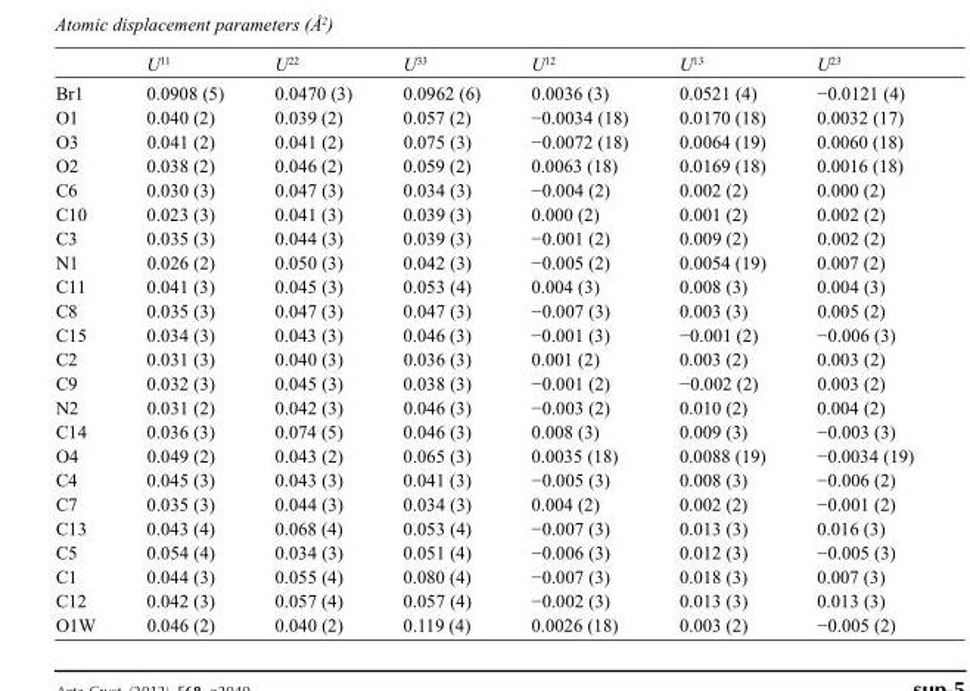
<table><thead><tr><td></td><td>U<sup>11</sup></td><td>U<sup>22</sup></td><td>U<sup>33</sup></td><td>U<sup>12</sup></td><td>U<sup>13</sup></td><td>U<sup>23</sup></td></tr></thead><tbody><tr><td>Br1</td><td>0.0908 (5)</td><td>0.0470 (3)</td><td>0.0962 (6)</td><td>0.0036 (3)</td><td>0.0521 (4)</td><td>−0.0121 (4)</td></tr><tr><td>O1</td><td>0.040 (2)</td><td>0.039 (2)</td><td>0.057 (2)</td><td>−0.0034 (18)</td><td>0.0170 (18)</td><td>0.0032 (17)</td></tr><tr><td>O3</td><td>0.041 (2)</td><td>0.041 (2)</td><td>0.075 (3)</td><td>−0.0072 (18)</td><td>0.0064 (19)</td><td>0.0060 (18)</td></tr><tr><td>O2</td><td>0.038 (2)</td><td>0.046 (2)</td><td>0.059 (2)</td><td>0.0063 (18)</td><td>0.0169 (18)</td><td>0.0016 (18)</td></tr><tr><td>C6</td><td>0.030 (3)</td><td>0.047 (3)</td><td>0.034 (3)</td><td>−0.004 (2)</td><td>0.002 (2)</td><td>0.000 (2)</td></tr><tr><td>C10</td><td>0.023 (3)</td><td>0.041 (3)</td><td>0.039 (3)</td><td>0.000 (2)</td><td>0.001 (2)</td><td>0.002 (2)</td></tr><tr><td>C3</td><td>0.035 (3)</td><td>0.044 (3)</td><td>0.039 (3)</td><td>−0.001 (2)</td><td>0.009 (2)</td><td>0.002 (2)</td></tr><tr><td>N1</td><td>0.026 (2)</td><td>0.050 (3)</td><td>0.042 (3)</td><td>−0.005 (2)</td><td>0.0054 (19)</td><td>0.007 (2)</td></tr><tr><td>C11</td><td>0.041 (3)</td><td>0.045 (3)</td><td>0.053 (4)</td><td>0.004 (3)</td><td>0.008 (3)</td><td>0.004 (3)</td></tr><tr><td>C8</td><td>0.035 (3)</td><td>0.047 (3)</td><td>0.047 (3)</td><td>−0.007 (3)</td><td>0.003 (3)</td><td>0.005 (2)</td></tr><tr><td>C15</td><td>0.034 (3)</td><td>0.043 (3)</td><td>0.046 (3)</td><td>−0.001 (3)</td><td>−0.001 (2)</td><td>−0.006 (3)</td></tr><tr><td>C2</td><td>0.031 (3)</td><td>0.040 (3)</td><td>0.036 (3)</td><td>0.001 (2)</td><td>0.003 (2)</td><td>0.003 (2)</td></tr><tr><td>C9</td><td>0.032 (3)</td><td>0.045 (3)</td><td>0.038 (3)</td><td>−0.001 (2)</td><td>−0.002 (2)</td><td>0.003 (2)</td></tr><tr><td>N2</td><td>0.031 (2)</td><td>0.042 (3)</td><td>0.046 (3)</td><td>−0.003 (2)</td><td>0.010 (2)</td><td>0.004 (2)</td></tr><tr><td>C14</td><td>0.036 (3)</td><td>0.074 (5)</td><td>0.046 (3)</td><td>0.008 (3)</td><td>0.009 (3)</td><td>−0.003 (3)</td></tr><tr><td>O4</td><td>0.049 (2)</td><td>0.043 (2)</td><td>0.065 (3)</td><td>0.0035 (18)</td><td>0.0088 (19)</td><td>−0.0034 (19)</td></tr><tr><td>C4</td><td>0.045 (3)</td><td>0.043 (3)</td><td>0.041 (3)</td><td>−0.005 (3)</td><td>0.008 (3)</td><td>−0.006 (2)</td></tr><tr><td>C7</td><td>0.035 (3)</td><td>0.044 (3)</td><td>0.034 (3)</td><td>0.004 (2)</td><td>0.002 (2)</td><td>−0.001 (2)</td></tr><tr><td>C13</td><td>0.043 (4)</td><td>0.068 (4)</td><td>0.053 (4)</td><td>−0.007 (3)</td><td>0.013 (3)</td><td>0.016 (3)</td></tr><tr><td>C5</td><td>0.054 (4)</td><td>0.034 (3)</td><td>0.051 (4)</td><td>−0.006 (3)</td><td>0.012 (3)</td><td>−0.005 (3)</td></tr><tr><td>C1</td><td>0.044 (3)</td><td>0.055 (4)</td><td>0.080 (4)</td><td>−0.007 (3)</td><td>0.018 (3)</td><td>0.007 (3)</td></tr><tr><td>C12</td><td>0.042 (3)</td><td>0.057 (4)</td><td>0.057 (4)</td><td>−0.002 (3)</td><td>0.013 (3)</td><td>0.013 (3)</td></tr><tr><td>O1W</td><td>0.046 (2)</td><td>0.040 (2)</td><td>0.119 (4)</td><td>0.0026 (18)</td><td>0.003 (2)</td><td>−0.005 (2)</td></tr></tbody></table>